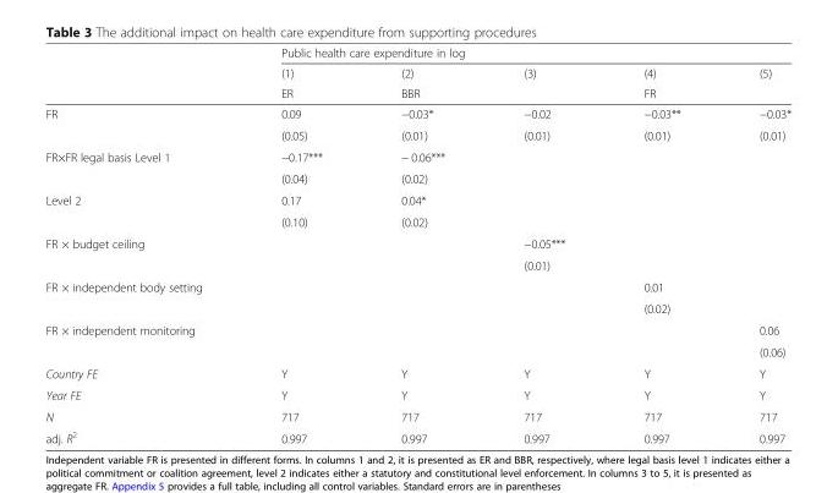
<table><thead><tr><td rowspan="3"></td><td colspan="5">Public health care expenditure in log</td></tr><tr><td rowspan="2">(1) ER</td><td rowspan="2">(2) BBR</td><td rowspan="2">(3)</td><td rowspan="2">(4) FR</td><td rowspan="2">(5)</td></tr><tr></tr></thead><tbody><tr><td rowspan="2">FR</td><td>0.09</td><td>−0.03*</td><td>−0.02</td><td>−0.03**</td><td>−0.03*</td></tr><tr><td>(0.05)</td><td>(0.01)</td><td>(0.01)</td><td>(0.01)</td><td>(0.01)</td></tr><tr><td rowspan="2">FR×FR legal basis Level 1</td><td>−0.17***</td><td>− 0.06***</td><td></td><td></td><td></td></tr><tr><td>(0.04)</td><td>(0.02)</td><td></td><td></td><td></td></tr><tr><td rowspan="2">Level 2</td><td>0.17</td><td>0.04*</td><td></td><td></td><td></td></tr><tr><td>(0.10)</td><td>(0.02)</td><td></td><td></td><td></td></tr><tr><td rowspan="2">FR × budget ceiling</td><td></td><td></td><td>−0.05***</td><td></td><td></td></tr><tr><td></td><td></td><td>(0.01)</td><td></td><td></td></tr><tr><td rowspan="2">FR × independent body setting</td><td></td><td></td><td></td><td>0.01</td><td></td></tr><tr><td></td><td></td><td></td><td>(0.02)</td><td></td></tr><tr><td rowspan="2">FR × independent monitoring</td><td></td><td></td><td></td><td></td><td>0.06</td></tr><tr><td></td><td></td><td></td><td></td><td>(0.06)</td></tr><tr><td>Country FE</td><td>Y</td><td>Y</td><td>Y</td><td>Y</td><td>Y</td></tr><tr><td>Year FE</td><td>Y</td><td>Y</td><td>Y</td><td>Y</td><td>Y</td></tr><tr><td>N</td><td>717</td><td>717</td><td>717</td><td>717</td><td>717</td></tr><tr><td>adj. R<sup>2</sup></td><td>0.997</td><td>0.997</td><td>0.997</td><td>0.997</td><td>0.997</td></tr></tbody></table>